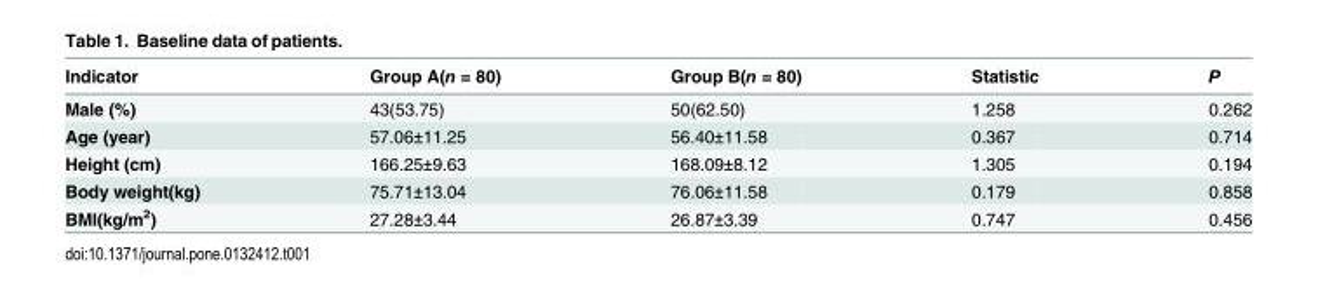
<table><thead><tr><td>Indicator</td><td>Group A(n = 80)</td><td>Group B(n = 80)</td><td>Statistic</td><td>P</td></tr></thead><tbody><tr><td>Male (%)</td><td>43(53.75)</td><td>50(62.50)</td><td>1.258</td><td>0.262</td></tr><tr><td>Age (year)</td><td>57.06±11.25</td><td>56.40±11.58</td><td>0.367</td><td>0.714</td></tr><tr><td>Height (cm)</td><td>166.25±9.63</td><td>168.09±8.12</td><td>1.305</td><td>0.194</td></tr><tr><td>Body weight(kg)</td><td>75.71±13.04</td><td>76.06±11.58</td><td>0.179</td><td>0.858</td></tr><tr><td>BMI(kg/m<sup>2</sup>)</td><td>27.28±3.44</td><td>26.87±3.39</td><td>0.747</td><td>0.456</td></tr></tbody></table>